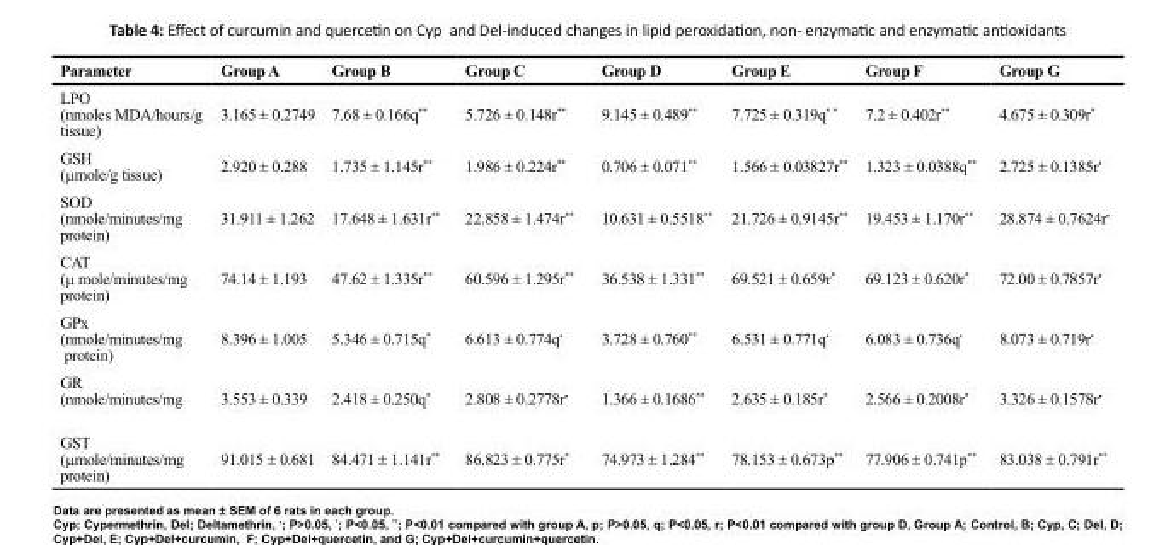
<table><thead><tr><td>Parameter</td><td>Group A</td><td>Group B</td><td>Group C</td><td>Group D</td><td>Group E</td><td>Group F</td><td>Group G</td></tr></thead><tbody><tr><td>LPO (nmoles MDA/hours/g tissue)</td><td>3.165 ± 0.2749</td><td>7.68 ± 0.166q**</td><td>5.726 ± 0.148r**</td><td>9.145 ± 0.489**</td><td>7.725 ± 0.319q* *</td><td>7.2 ± 0.402r**</td><td>4.675 ± 0.309r*</td></tr><tr><td>GSH (µmole/g tissue)</td><td>2.920 ± 0.288</td><td>1.735 ± 1.145r**</td><td>1.986 ± 0.224r**</td><td>0.706 ± 0.071**</td><td>1.566 ± 0.03827r**</td><td>1.323 ± 0.0388q**</td><td>2.725 ± 0.1385r<sup>•</sup></td></tr><tr><td>SOD (nmole/minutes/mg protein)</td><td>31.911 ± 1.262</td><td>17.648 ± 1.631r**</td><td>22.858 ± 1.474r**</td><td>10.631 ± 0.5518**</td><td>21.726 ± 0.9145r**</td><td>19.453 ± 1.170r**</td><td>28.874 ± 0.7624r<sup>•</sup></td></tr><tr><td>CAT (µ mole/minutes/mg protein)</td><td>74.14 ± 1.193</td><td>47.62 ± 1.335r**</td><td>60.596 ± 1.295r**</td><td>36.538 ± 1.331**</td><td>69.521 ± 0.659r*</td><td>69.123 ± 0.620r*</td><td>72.00 ± 0.7857r<sup>•</sup></td></tr><tr><td>GPx (nmole/minutes/mg protein)</td><td>8.396 ± 1.005</td><td>5.346 ± 0.715q*</td><td>6.613 ± 0.774q<sup>•</sup></td><td>3.728 ± 0.760**</td><td>6.531 ± 0.771q<sup>•</sup></td><td>6.083 ± 0.736q<sup>•</sup></td><td>8.073 ± 0.719r<sup>•</sup></td></tr><tr><td>GR (nmole/minutes/mg</td><td>3.553 ± 0.339</td><td>2.418 ± 0.250q*</td><td>2.808 ± 0.2778r<sup>•</sup></td><td>1.366 ± 0.1686**</td><td>2.635 ± 0.185r*</td><td>2.566 ± 0.2008r*</td><td>3.326 ± 0.1578r<sup>•</sup></td></tr><tr><td>GST (µmole/minutes/mg protein)</td><td>91.015 ± 0.681</td><td>84.471 ± 1.141r**</td><td>86.823 ± 0.775r*</td><td>74.973 ± 1.284**</td><td>78.153 ± 0.673p**</td><td>77.906 ± 0.741p**</td><td>83.038 ± 0.791r**</td></tr></tbody></table>